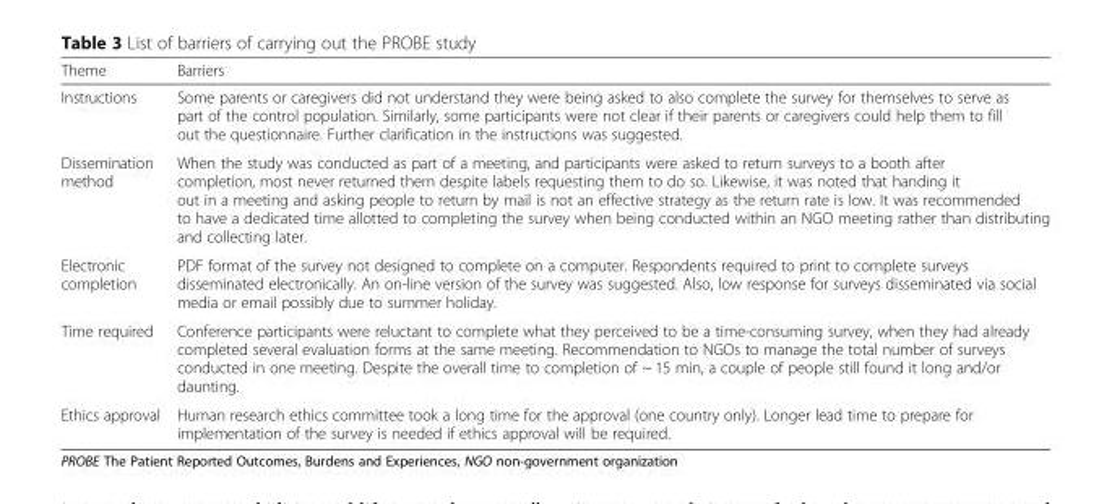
<table><thead><tr><td>Theme</td><td>Barriers</td></tr></thead><tbody><tr><td>Instructions</td><td>Some parents or caregivers did not understand they were being asked to also complete the survey for themselves to serve as part of the control population. Similarly, some participants were not clear if their parents or caregivers could help them to fill out the questionnaire. Further clarification in the instructions was suggested.</td></tr><tr><td>Dissemination method</td><td>When the study was conducted as part of a meeting, and participants were asked to return surveys to a booth after completion, most never returned them despite labels requesting them to do so. Likewise, it was noted that handing it out in a meeting and asking people to return by mail is not an effective strategy as the return rate is low. It was recommended to have a dedicated time allotted to completing the survey when being conducted within an NGO meeting rather than distributing and collecting later.</td></tr><tr><td>Electronic completion</td><td>PDF format of the survey not designed to complete on a computer. Respondents required to print to complete surveys disseminated electronically. An on-line version of the survey was suggested. Also, low response for surveys disseminated via social media or email possibly due to summer holiday.</td></tr><tr><td>Time required</td><td>Conference participants were reluctant to complete what they perceived to be a time-consuming survey, when they had already completed several evaluation forms at the same meeting. Recommendation to NGOs to manage the total number of surveys conducted in one meeting. Despite the overall time to completion of ~ 15 min, a couple of people still found it long and/or daunting.</td></tr><tr><td>Ethics approval</td><td>Human research ethics committee took a long time for the approval (one country only). Longer lead time to prepare for implementation of the survey is needed if ethics approval will be required.</td></tr></tbody></table>